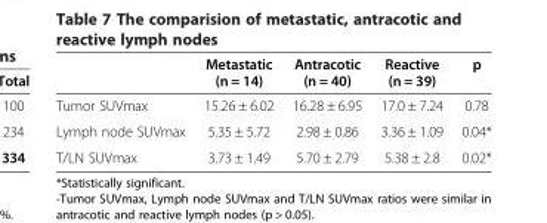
<table><thead><tr><td></td><td>Metastatic (n = 14)</td><td>Antracotic (n = 40)</td><td>Reactive (n = 39)</td><td>p</td></tr></thead><tbody><tr><td>Tumor SUVmax</td><td>15.26 ± 6.02</td><td>16.28 ± 6.95</td><td>17.0 ± 7.24</td><td>0.78</td></tr><tr><td>Lymph node SUVmax</td><td>5.35 ± 5.72</td><td>2.98 ± 0.86</td><td>3.36 ± 1.09</td><td>0.04*</td></tr><tr><td>T/LN SUVmax</td><td>3.73 ± 1.49</td><td>5.70 ± 2.79</td><td>5.38 ± 2.8</td><td>0.02*</td></tr></tbody></table>